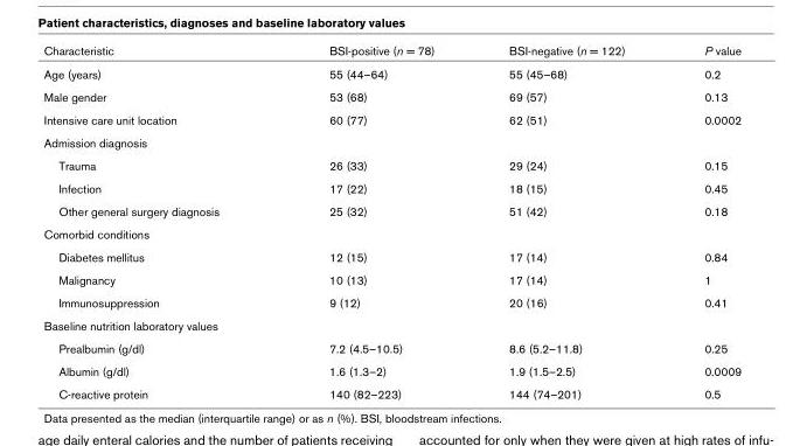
<table><thead><tr><td>Characteristic</td><td>BSI-positive (n = 78)</td><td>BSI-negative (n = 122)</td><td>P value</td></tr></thead><tbody><tr><td>Age (years)</td><td>55 (44–64)</td><td>55 (45–68)</td><td>0.2</td></tr><tr><td>Male gender</td><td>53 (68)</td><td>69 (57)</td><td>0.13</td></tr><tr><td>Intensive care unit location</td><td>60 (77)</td><td>62 (51)</td><td>0.0002</td></tr><tr><td colspan="4">Admission diagnosis</td></tr><tr><td>Trauma</td><td>26 (33)</td><td>29 (24)</td><td>0.15</td></tr><tr><td>Infection</td><td>17 (22)</td><td>18 (15)</td><td>0.45</td></tr><tr><td>Other general surgery diagnosis</td><td>25 (32)</td><td>51 (42)</td><td>0.18</td></tr><tr><td colspan="4">Comorbid conditions</td></tr><tr><td>Diabetes mellitus</td><td>12 (15)</td><td>17 (14)</td><td>0.84</td></tr><tr><td>Malignancy</td><td>10 (13)</td><td>17 (14)</td><td>1</td></tr><tr><td>Immunosuppression</td><td>9 (12)</td><td>20 (16)</td><td>0.41</td></tr><tr><td colspan="4">Baseline nutrition laboratory values</td></tr><tr><td>Prealbumin (g/dl)</td><td>7.2 (4.5–10.5)</td><td>8.6 (5.2–11.8)</td><td>0.25</td></tr><tr><td>Albumin (g/dl)</td><td>1.6 (1.3–2)</td><td>1.9 (1.5–2.5)</td><td>0.0009</td></tr><tr><td>C-reactive protein</td><td>140 (82–223)</td><td>144 (74–201)</td><td>0.5</td></tr></tbody></table>